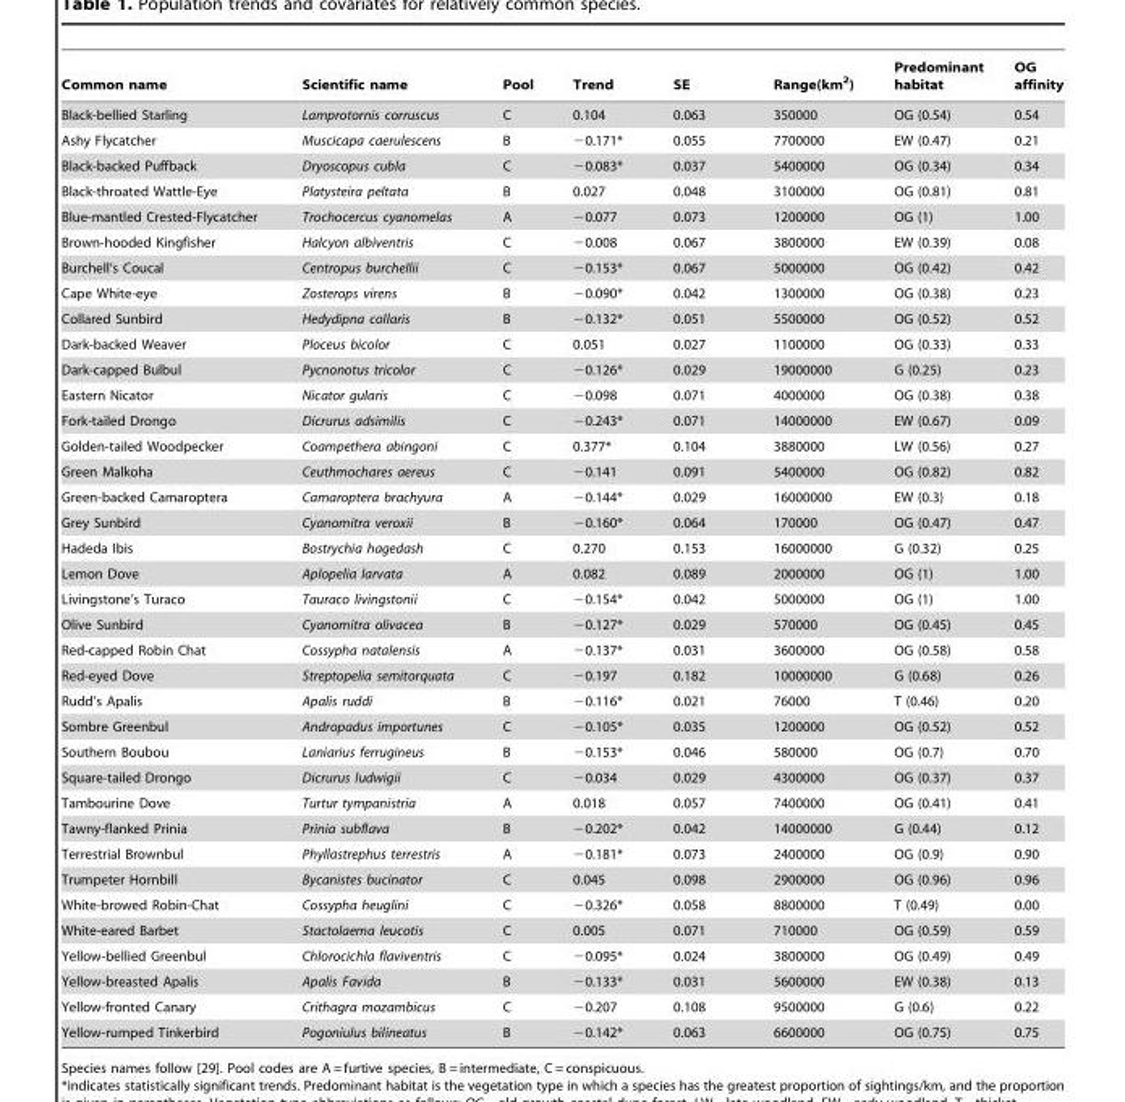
<table><thead><tr><td>Common name</td><td>Scientific name</td><td>Pool</td><td>Trend</td><td>SE</td><td>Range(km<sup>2</sup>)</td><td>Predominant habitat</td><td>OG affinity</td></tr></thead><tbody><tr><td>Black-bellied Starling</td><td>Lamprotornis corruscus</td><td>C</td><td>0.104</td><td>0.063</td><td>350000</td><td>OG (0.54)</td><td>0.54</td></tr><tr><td>Ashy Flycatcher</td><td>Muscicapa caerulescens</td><td>B</td><td>−0.171*</td><td>0.055</td><td>7700000</td><td>EW (0.47)</td><td>0.21</td></tr><tr><td>Black-backed Puffback</td><td>Dryoscopus cubla</td><td>C</td><td>−0.083*</td><td>0.037</td><td>5400000</td><td>OG (0.34)</td><td>0.34</td></tr><tr><td>Black-throated Wattle-Eye</td><td>Platysteira peltata</td><td>B</td><td>0.027</td><td>0.048</td><td>3100000</td><td>OG (0.81)</td><td>0.81</td></tr><tr><td>Blue-mantled Crested-Flycatcher</td><td>Trochocercus cyanomelas</td><td>A</td><td>−0.077</td><td>0.073</td><td>1200000</td><td>OG (1)</td><td>1.00</td></tr><tr><td>Brown-hooded Kingfisher</td><td>Halcyon albiventris</td><td>C</td><td>−0.008</td><td>0.067</td><td>3800000</td><td>EW (0.39)</td><td>0.08</td></tr><tr><td>Burchell’s Coucal</td><td>Centropus burchellii</td><td>C</td><td>−0.153*</td><td>0.067</td><td>5000000</td><td>OG (0.42)</td><td>0.42</td></tr><tr><td>Cape White-eye</td><td>Zosterops virens</td><td>B</td><td>−0.090*</td><td>0.042</td><td>1300000</td><td>OG (0.38)</td><td>0.23</td></tr><tr><td>Collared Sunbird</td><td>Hedydipna collaris</td><td>B</td><td>−0.132*</td><td>0.051</td><td>5500000</td><td>OG (0.52)</td><td>0.52</td></tr><tr><td>Dark-backed Weaver</td><td>Ploceus bicolor</td><td>C</td><td>0.051</td><td>0.027</td><td>1100000</td><td>OG (0.33)</td><td>0.33</td></tr><tr><td>Dark-capped Bulbul</td><td>Pycnonotus tricolor</td><td>C</td><td>−0.126*</td><td>0.029</td><td>19000000</td><td>G (0.25)</td><td>0.23</td></tr><tr><td>Eastern Nicator</td><td>Nicator gularis</td><td>C</td><td>−0.098</td><td>0.071</td><td>4000000</td><td>OG (0.38)</td><td>0.38</td></tr><tr><td>Fork-tailed Drongo</td><td>Dicrurus adsimilis</td><td>C</td><td>−0.243*</td><td>0.071</td><td>14000000</td><td>EW (0.67)</td><td>0.09</td></tr><tr><td>Golden-tailed Woodpecker</td><td>Coampethera abingoni</td><td>C</td><td>0.377*</td><td>0.104</td><td>3880000</td><td>LW (0.56)</td><td>0.27</td></tr><tr><td>Green Malkoha</td><td>Ceuthmochares aereus</td><td>C</td><td>−0.141</td><td>0.091</td><td>5400000</td><td>OG (0.82)</td><td>0.82</td></tr><tr><td>Green-backed Camaroptera</td><td>Camaroptera brachyura</td><td>A</td><td>−0.144*</td><td>0.029</td><td>16000000</td><td>EW (0.3)</td><td>0.18</td></tr><tr><td>Grey Sunbird</td><td>Cyanomitra veroxii</td><td>B</td><td>−0.160*</td><td>0.064</td><td>170000</td><td>OG (0.47)</td><td>0.47</td></tr><tr><td>Hadeda Ibis</td><td>Bostrychia hagedash</td><td>C</td><td>0.270</td><td>0.153</td><td>16000000</td><td>G (0.32)</td><td>0.25</td></tr><tr><td>Lemon Dove</td><td>Aplopelia larvata</td><td>A</td><td>0.082</td><td>0.089</td><td>2000000</td><td>OG (1)</td><td>1.00</td></tr><tr><td>Livingstone’s Turaco</td><td>Tauraco livingstonii</td><td>C</td><td>−0.154*</td><td>0.042</td><td>5000000</td><td>OG (1)</td><td>1.00</td></tr><tr><td>Olive Sunbird</td><td>Cyanomitra olivacea</td><td>B</td><td>−0.127*</td><td>0.029</td><td>570000</td><td>OG (0.45)</td><td>0.45</td></tr><tr><td>Red-capped Robin Chat</td><td>Cossypha natalensis</td><td>A</td><td>−0.137*</td><td>0.031</td><td>3600000</td><td>OG (0.58)</td><td>0.58</td></tr><tr><td>Red-eyed Dove</td><td>Streptopelia semitorquata</td><td>C</td><td>−0.197</td><td>0.182</td><td>10000000</td><td>G (0.68)</td><td>0.26</td></tr><tr><td>Rudd’s Apalis</td><td>Apalis ruddi</td><td>B</td><td>−0.116*</td><td>0.021</td><td>76000</td><td>T (0.46)</td><td>0.20</td></tr><tr><td>Sombre Greenbul</td><td>Andropadus importunes</td><td>C</td><td>−0.105*</td><td>0.035</td><td>1200000</td><td>OG (0.52)</td><td>0.52</td></tr><tr><td>Southern Boubou</td><td>Laniarius ferrugineus</td><td>B</td><td>−0.153*</td><td>0.046</td><td>580000</td><td>OG (0.7)</td><td>0.70</td></tr><tr><td>Square-tailed Drongo</td><td>Dicrurus ludwigii</td><td>C</td><td>−0.034</td><td>0.029</td><td>4300000</td><td>OG (0.37)</td><td>0.37</td></tr><tr><td>Tambourine Dove</td><td>Turtur tympanistria</td><td>A</td><td>0.018</td><td>0.057</td><td>7400000</td><td>OG (0.41)</td><td>0.41</td></tr><tr><td>Tawny-flanked Prinia</td><td>Prinia subflava</td><td>B</td><td>−0.202*</td><td>0.042</td><td>14000000</td><td>G (0.44)</td><td>0.12</td></tr><tr><td>Terrestrial Brownbul</td><td>Phyllastrephus terrestris</td><td>A</td><td>−0.181*</td><td>0.073</td><td>2400000</td><td>OG (0.9)</td><td>0.90</td></tr><tr><td>Trumpeter Hornbill</td><td>Bycanistes bucinator</td><td>C</td><td>0.045</td><td>0.098</td><td>2900000</td><td>OG (0.96)</td><td>0.96</td></tr><tr><td>White-browed Robin-Chat</td><td>Cossypha heuglini</td><td>C</td><td>−0.326*</td><td>0.058</td><td>8800000</td><td>T (0.49)</td><td>0.00</td></tr><tr><td>White-eared Barbet</td><td>Stactolaema leucotis</td><td>C</td><td>0.005</td><td>0.071</td><td>710000</td><td>OG (0.59)</td><td>0.59</td></tr><tr><td>Yellow-bellied Greenbul</td><td>Chlorocichla flaviventris</td><td>C</td><td>−0.095*</td><td>0.024</td><td>3800000</td><td>OG (0.49)</td><td>0.49</td></tr><tr><td>Yellow-breasted Apalis</td><td>Apalis Favida</td><td>B</td><td>−0.133*</td><td>0.031</td><td>5600000</td><td>EW (0.38)</td><td>0.13</td></tr><tr><td>Yellow-fronted Canary</td><td>Crithagra mozambicus</td><td>C</td><td>−0.207</td><td>0.108</td><td>9500000</td><td>G (0.6)</td><td>0.22</td></tr><tr><td>Yellow-rumped Tinkerbird</td><td>Pogoniulus bilineatus</td><td>B</td><td>−0.142*</td><td>0.063</td><td>6600000</td><td>OG (0.75)</td><td>0.75</td></tr></tbody></table>